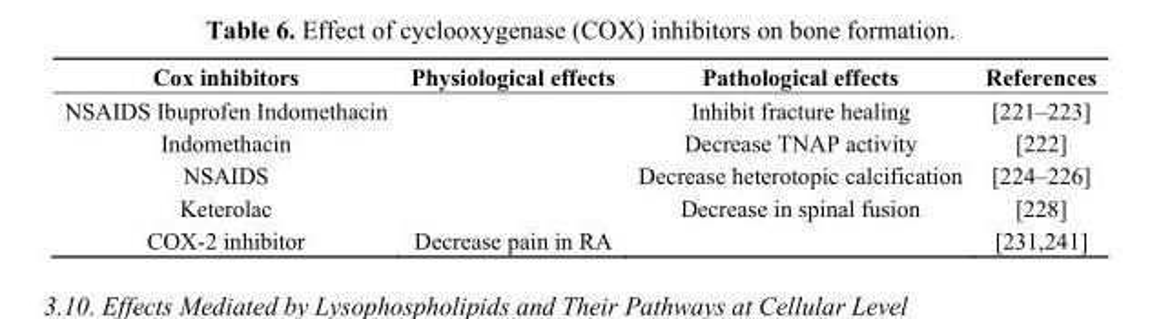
<table><thead><tr><td>Cox inhibitors</td><td>Physiological effects</td><td>Pathological effects</td><td>References</td></tr></thead><tbody><tr><td>NSAIDS Ibuprofen Indomethacin</td><td></td><td>Inhibit fracture healing</td><td>[221–223]</td></tr><tr><td>Indomethacin</td><td></td><td>Decrease TNAP activity</td><td>[222]</td></tr><tr><td>NSAIDS</td><td></td><td>Decrease heterotopic calcification</td><td>[224–226]</td></tr><tr><td>Keterolac</td><td></td><td>Decrease in spinal fusion</td><td>[228]</td></tr><tr><td>COX-2 inhibitor</td><td>Decrease pain in RA</td><td></td><td>[231,241]</td></tr></tbody></table>